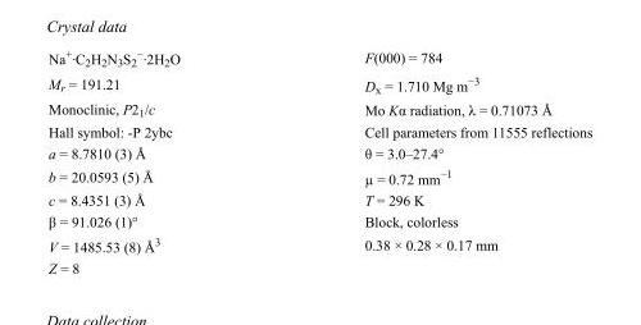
<table><tbody><tr><td>Na<sup>+</sup>·C<sub>2</sub>H<sub>2</sub>N<sub>3</sub>S<sub>2</sub> <sup>−</sup>·2H<sub>2</sub>O</td><td>F(000) = 784</td></tr><tr><td>M<sub>r</sub> = 191.21</td><td>D<sub>x</sub> = 1.710 Mg m<sup>−3</sup></td></tr><tr><td>Monoclinic, P2<sub>1</sub>/c</td><td>Mo Kα radiation, λ = 0.71073 Å</td></tr><tr><td>Hall symbol: -P 2ybc</td><td>Cell parameters from 11555 reflections</td></tr><tr><td>a = 8.7810 (3) Å</td><td>θ = 3.0–27.4°</td></tr><tr><td>b = 20.0593 (5) Å</td><td>µ = 0.72 mm<sup>−1</sup></td></tr><tr><td>c = 8.4351 (3) Å</td><td>T = 296 K</td></tr><tr><td>β = 91.026 (1)°</td><td>Block, colorless</td></tr><tr><td>V = 1485.53 (8) Å<sup>3</sup></td><td>0.38 × 0.28 × 0.17 mm</td></tr><tr><td>Z = 8</td><td></td></tr></tbody></table>